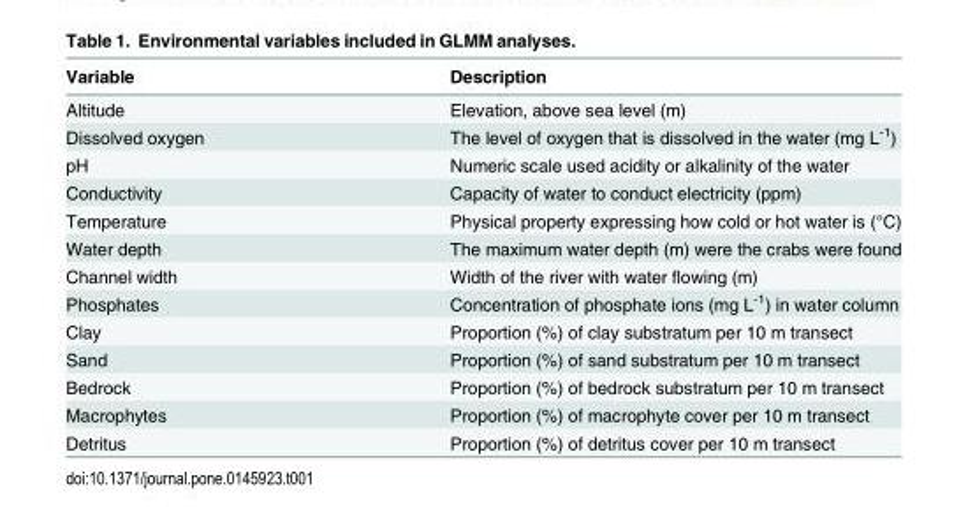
<table><thead><tr><td>Variable</td><td>Description</td></tr></thead><tbody><tr><td>Altitude</td><td>Elevation, above sea level (m)</td></tr><tr><td>Dissolved oxygen</td><td>The level of oxygen that is dissolved in the water (mg L<sup>-1</sup>)</td></tr><tr><td>pH</td><td>Numeric scale used acidity or alkalinity of the water</td></tr><tr><td>Conductivity</td><td>Capacity of water to conduct electricity (ppm)</td></tr><tr><td>Temperature</td><td>Physical property expressing how cold or hot water is (°C)</td></tr><tr><td>Water depth</td><td>The maximum water depth (m) were the crabs were found</td></tr><tr><td>Channel width</td><td>Width of the river with water flowing (m)</td></tr><tr><td>Phosphates</td><td>Concentration of phosphate ions (mg L<sup>-1</sup>) in water column</td></tr><tr><td>Clay</td><td>Proportion (%) of clay substratum per 10 m transect</td></tr><tr><td>Sand</td><td>Proportion (%) of sand substratum per 10 m transect</td></tr><tr><td>Bedrock</td><td>Proportion (%) of bedrock substratum per 10 m transect</td></tr><tr><td>Macrophytes</td><td>Proportion (%) of macrophyte cover per 10 m transect</td></tr><tr><td>Detritus</td><td>Proportion (%) of detritus cover per 10 m transect</td></tr></tbody></table>